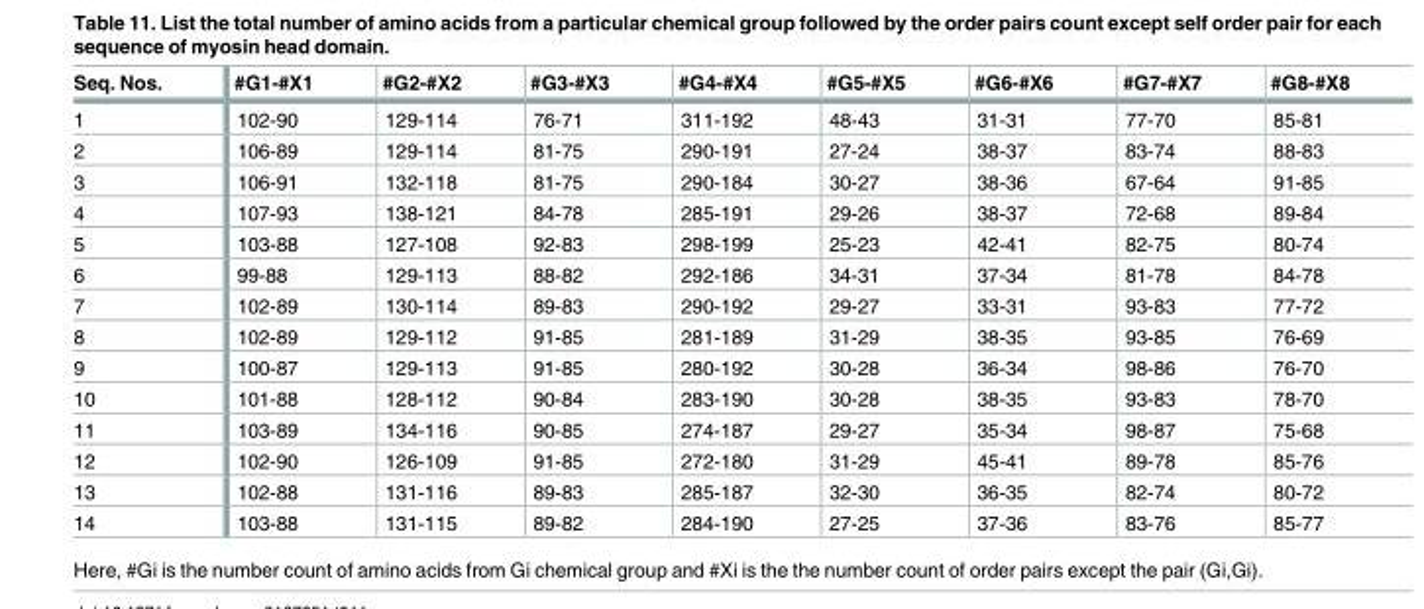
<table><thead><tr><td>Seq. Nos.</td><td>#G1-#X1</td><td>#G2-#X2</td><td>#G3-#X3</td><td>#G4-#X4</td><td>#G5-#X5</td><td>#G6-#X6</td><td>#G7-#X7</td><td>#G8-#X8</td></tr></thead><tbody><tr><td>1</td><td>102-90</td><td>129-114</td><td>76-71</td><td>311-192</td><td>48-43</td><td>31-31</td><td>77-70</td><td>85-81</td></tr><tr><td>2</td><td>106-89</td><td>129-114</td><td>81-75</td><td>290-191</td><td>27-24</td><td>38-37</td><td>83-74</td><td>88-83</td></tr><tr><td>3</td><td>106-91</td><td>132-118</td><td>81-75</td><td>290-184</td><td>30-27</td><td>38-36</td><td>67-64</td><td>91-85</td></tr><tr><td>4</td><td>107-93</td><td>138-121</td><td>84-78</td><td>285-191</td><td>29-26</td><td>38-37</td><td>72-68</td><td>89-84</td></tr><tr><td>5</td><td>103-88</td><td>127-108</td><td>92-83</td><td>298-199</td><td>25-23</td><td>42-41</td><td>82-75</td><td>80-74</td></tr><tr><td>6</td><td>99-88</td><td>129-113</td><td>88-82</td><td>292-186</td><td>34-31</td><td>37-34</td><td>81-78</td><td>84-78</td></tr><tr><td>7</td><td>102-89</td><td>130-114</td><td>89-83</td><td>290-192</td><td>29-27</td><td>33-31</td><td>93-83</td><td>77-72</td></tr><tr><td>8</td><td>102-89</td><td>129-112</td><td>91-85</td><td>281-189</td><td>31-29</td><td>38-35</td><td>93-85</td><td>76-69</td></tr><tr><td>9</td><td>100-87</td><td>129-113</td><td>91-85</td><td>280-192</td><td>30-28</td><td>36-34</td><td>98-86</td><td>76-70</td></tr><tr><td>10</td><td>101-88</td><td>128-112</td><td>90-84</td><td>283-190</td><td>30-28</td><td>38-35</td><td>93-83</td><td>78-70</td></tr><tr><td>11</td><td>103-89</td><td>134-116</td><td>90-85</td><td>274-187</td><td>29-27</td><td>35-34</td><td>98-87</td><td>75-68</td></tr><tr><td>12</td><td>102-90</td><td>126-109</td><td>91-85</td><td>272-180</td><td>31-29</td><td>45-41</td><td>89-78</td><td>85-76</td></tr><tr><td>13</td><td>102-88</td><td>131-116</td><td>89-83</td><td>285-187</td><td>32-30</td><td>36-35</td><td>82-74</td><td>80-72</td></tr><tr><td>14</td><td>103-88</td><td>131-115</td><td>89-82</td><td>284-190</td><td>27-25</td><td>37-36</td><td>83-76</td><td>85-77</td></tr></tbody></table>